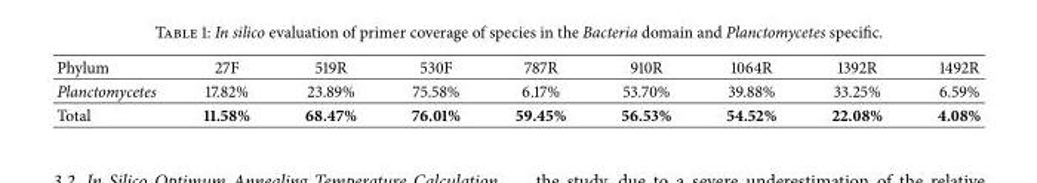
<table><tbody><tr><td>Phylum</td><td>27F</td><td>519R</td><td>530F</td><td>787R</td><td>910R</td><td>1064R</td><td>1392R</td><td>1492R</td></tr><tr><td>Planctomycetes</td><td>17.82%</td><td>23.89%</td><td>75.58%</td><td>6.17%</td><td>53.70%</td><td>39.88%</td><td>33.25%</td><td>6.59%</td></tr><tr><td>Total</td><td>11.58%</td><td>68.47%</td><td>76.01%</td><td>59.45%</td><td>56.53%</td><td>54.52%</td><td>22.08%</td><td>4.08%</td></tr></tbody></table>